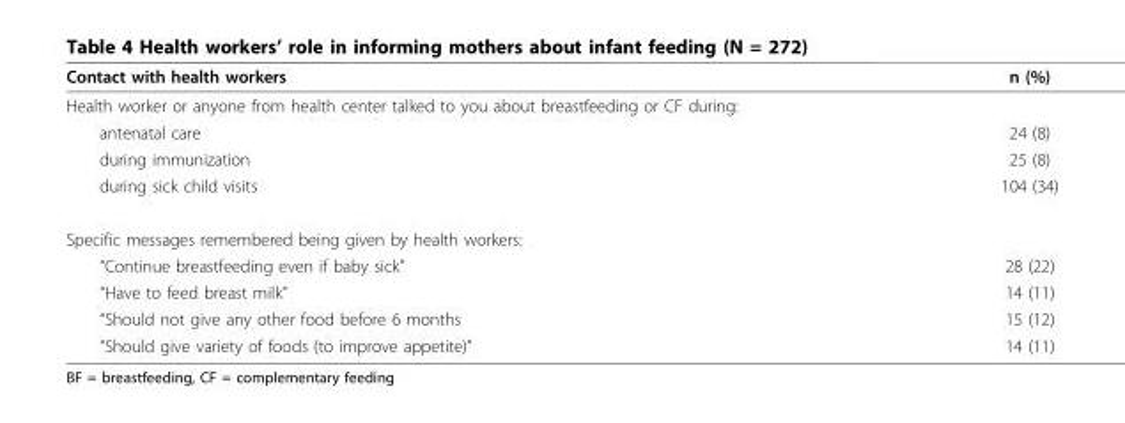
<table><thead><tr><td>Contact with health workers</td><td>n (%)</td></tr></thead><tbody><tr><td colspan="2">Health worker or anyone from health center talked to you about breastfeeding or CF during:</td></tr><tr><td>antenatal care</td><td>24 (8)</td></tr><tr><td>during immunization</td><td>25 (8)</td></tr><tr><td>during sick child visits</td><td>104 (34)</td></tr><tr><td colspan="2">Specific messages remembered being given by health workers:</td></tr><tr><td>“Continue breastfeeding even if baby sick”</td><td>28 (22)</td></tr><tr><td>“Have to feed breast milk”</td><td>14 (11)</td></tr><tr><td>“Should not give any other food before 6 months</td><td>15 (12)</td></tr><tr><td>“Should give variety of foods (to improve appetite)”</td><td>14 (11)</td></tr></tbody></table>